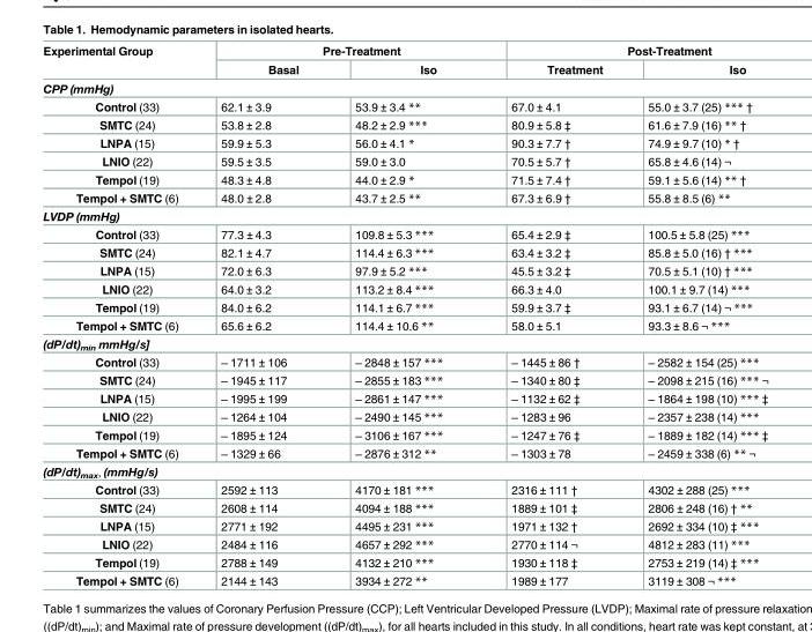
<table><thead><tr><td rowspan="2">Experimental Group</td><td colspan="2">Pre-Treatment</td><td colspan="2">Post-Treatment</td></tr><tr><td>Basal</td><td>Iso</td><td>Treatment</td><td>Iso</td></tr></thead><tbody><tr><td colspan="5">CPP (mmHg)</td></tr><tr><td>Control (33)</td><td>62.1 ± 3.9</td><td>53.9 ± 3.4 **</td><td>67.0 ± 4.1</td><td>55.0 ± 3.7 (25) *** †</td></tr><tr><td>SMTC (24)</td><td>53.8 ± 2.8</td><td>48.2 ± 2.9 ***</td><td>80.9 ± 5.8 ‡</td><td>61.6 ± 7.9 (16) ** †</td></tr><tr><td>LNPA (15)</td><td>59.9 ± 5.3</td><td>56.0 ± 4.1 *</td><td>90.3 ± 7.7 †</td><td>74.9 ± 9.7 (10) * †</td></tr><tr><td>LNIO (22)</td><td>59.5 ± 3.5</td><td>59.0 ± 3.0</td><td>70.5 ± 5.7 †</td><td>65.8 ± 4.6 (14) ¬</td></tr><tr><td>Tempol (19)</td><td>48.3 ± 4.8</td><td>44.0 ± 2.9 *</td><td>71.5 ± 7.4 †</td><td>59.1 ± 5.6 (14) ** †</td></tr><tr><td>Tempol + SMTC (6)</td><td>48.0 ± 2.8</td><td>43.7 ± 2.5 **</td><td>67.3 ± 6.9 †</td><td>55.8 ± 8.5 (6) **</td></tr><tr><td colspan="5">LVDP (mmHg)</td></tr><tr><td>Control (33)</td><td>77.3 ± 4.3</td><td>109.8 ± 5.3 ***</td><td>65.4 ± 2.9 ‡</td><td>100.5 ± 5.8 (25) ***</td></tr><tr><td>SMTC (24)</td><td>82.1 ± 4.7</td><td>114.4 ± 6.3 ***</td><td>63.4 ± 3.2 ‡</td><td>85.8 ± 5.0 (16) † ***</td></tr><tr><td>LNPA (15)</td><td>72.0 ± 6.3</td><td>97.9 ± 5.2 ***</td><td>45.5 ± 3.2 ‡</td><td>70.5 ± 5.1 (10) † ***</td></tr><tr><td>LNIO (22)</td><td>64.0 ± 3.2</td><td>113.2 ± 8.4 ***</td><td>66.3 ± 4.0</td><td>100.1 ± 9.7 (14) ***</td></tr><tr><td>Tempol (19)</td><td>84.0 ± 6.2</td><td>114.1 ± 6.7 ***</td><td>59.9 ± 3.7 ‡</td><td>93.1 ± 6.7 (14) ¬ ***</td></tr><tr><td>Tempol + SMTC (6)</td><td>65.6 ± 6.2</td><td>114.4 ± 10.6 **</td><td>58.0 ± 5.1</td><td>93.3 ± 8.6 ¬ ***</td></tr><tr><td colspan="5">(dP/dt)<sub>min</sub> mmHg/s]</td></tr><tr><td>Control (33)</td><td>‒ 1711 ± 106</td><td>‒ 2848 ± 157 ***</td><td>‒ 1445 ± 86 †</td><td>‒ 2582 ± 154 (25) ***</td></tr><tr><td>SMTC (24)</td><td>‒ 1945 ± 117</td><td>‒ 2855 ± 183 ***</td><td>‒ 1340 ± 80 ‡</td><td>‒ 2098 ± 215 (16) *** ¬</td></tr><tr><td>LNPA (15)</td><td>‒ 1995 ± 199</td><td>‒ 2861 ± 147 ***</td><td>‒ 1132 ± 62 ‡</td><td>‒ 1864 ± 198 (10) *** ‡</td></tr><tr><td>LNIO (22)</td><td>‒ 1264 ± 104</td><td>‒ 2490 ± 145 ***</td><td>‒ 1283 ± 96</td><td>‒ 2357 ± 238 (14) ***</td></tr><tr><td>Tempol (19)</td><td>‒ 1895 ± 124</td><td>‒ 3106 ± 167 ***</td><td>‒ 1247 ± 76 ‡</td><td>‒ 1889 ± 182 (14) *** ‡</td></tr><tr><td>Tempol + SMTC (6)</td><td>‒ 1329 ± 66</td><td>‒ 2876 ± 312 **</td><td>‒ 1303 ± 78</td><td>‒ 2459 ± 338 (6) ** ¬</td></tr><tr><td colspan="5">(dP/dt)<sub>max</sub>, (mmHg/s)</td></tr><tr><td>Control (33)</td><td>2592 ± 113</td><td>4170 ± 181 ***</td><td>2316 ± 111 †</td><td>4302 ± 288 (25) ***</td></tr><tr><td>SMTC (24)</td><td>2608 ± 114</td><td>4094 ± 188 ***</td><td>1889 ± 101 ‡</td><td>2806 ± 248 (16) † **</td></tr><tr><td>LNPA (15)</td><td>2771 ± 192</td><td>4495 ± 231 ***</td><td>1971 ± 132 †</td><td>2692 ± 334 (10) ‡ ***</td></tr><tr><td>LNIO (22)</td><td>2484 ± 116</td><td>4657 ± 292 ***</td><td>2770 ± 114 ¬</td><td>4812 ± 283 (11) ***</td></tr><tr><td>Tempol (19)</td><td>2788 ± 149</td><td>4132 ± 210 ***</td><td>1930 ± 118 ‡</td><td>2753 ± 219 (14) ‡ ***</td></tr><tr><td>Tempol + SMTC (6)</td><td>2144 ± 143</td><td>3934 ± 272 **</td><td>1989 ± 177</td><td>3119 ± 308 ¬ ***</td></tr></tbody></table>